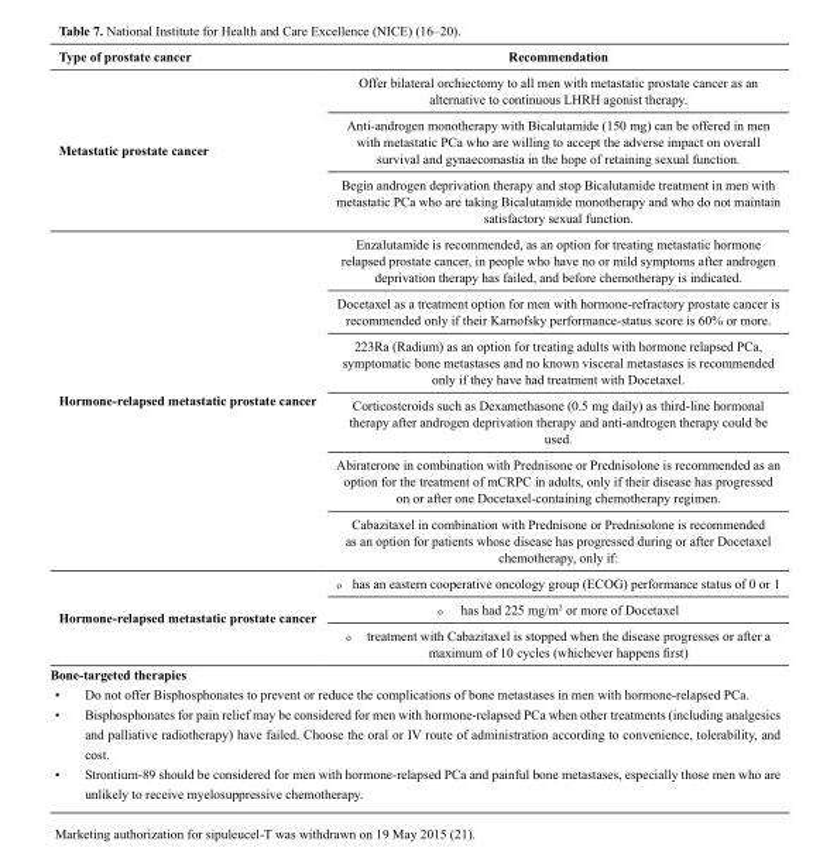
<table><thead><tr><td>Type of prostate cancer</td><td>Recommendation</td></tr></thead><tbody><tr><td rowspan="3">Metastatic prostate cancer</td><td>Offer bilateral orchiectomy to all men with metastatic prostate cancer as an alternative to continuous LHRH agonist therapy.</td></tr><tr><td>Anti-androgen monotherapy with Bicalutamide (150 mg) can be offered in men with metastatic PCa who are willing to accept the adverse impact on overall survival and gynaecomastia in the hope of retaining sexual function.</td></tr><tr><td>Begin androgen deprivation therapy and stop Bicalutamide treatment in men with metastatic PCa who are taking Bicalutamide monotherapy and who do not maintain satisfactory sexual function.</td></tr><tr><td rowspan="6">Hormone-relapsed metastatic prostate cancer Hormone-relapsed metastatic prostate cancer</td><td>Enzalutamide is recommended, as an option for treating metastatic hormone relapsed prostate cancer, in people who have no or mild symptoms after androgen deprivation therapy has failed, and before chemotherapy is indicated.</td></tr><tr><td>Docetaxel as a treatment option for men with hormone-refractory prostate cancer is recommended only if their Karnofsky performance-status score is 60% or more.</td></tr><tr><td><sup>223</sup>Ra (Radium) as an option for treating adults with hormone relapsed PCa, symptomatic bone metastases and no known visceral metastases is recommended only if they have had treatment with Docetaxel.</td></tr><tr><td>Corticosteroids such as Dexamethasone (0.5 mg daily) as third-line hormonal therapy after androgen deprivation therapy and anti-androgen therapy could be used.</td></tr><tr><td>Abiraterone in combination with Prednisone or Prednisolone is recommended as an option for the treatment of mCRPC in adults, only if their disease has progressed on or after one Docetaxel-containing chemotherapy regimen.</td></tr><tr><td>Cabazitaxel in combination with Prednisone or Prednisolone is recommended as an option for patients whose disease has progressed during or after Docetaxel chemotherapy, only if: o has an eastern cooperative oncology group (ECOG) performance status of 0 or 1 o has had 225 mg/m2 or more of Docetaxel o treatment with Cabazitaxel is stopped when the disease progresses or after a maximum of 10 cycles (whichever happens first)</td></tr><tr><td colspan="2">Bone-targeted therapies • Do not offer Bisphosphonates to prevent or reduce the complications of bone metastases in men with hormone-relapsed PCa. • Bisphosphonates for pain relief may be considered for men with hormone-relapsed PCa when other treatments (including analgesics and palliative radiotherapy) have failed. Choose the oral or IV route of administration according to convenience, tolerability, and cost. • Strontium-89 should be considered for men with hormone-relapsed PCa and painful bone metastases, especially those men who are unlikely to receive myelosuppressive chemotherapy.</td></tr></tbody></table>